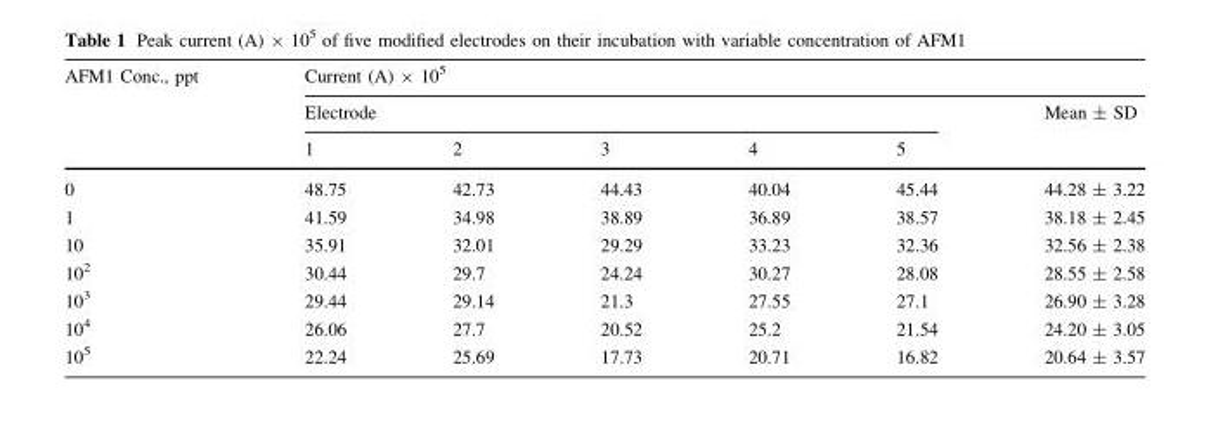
<table><thead><tr><td rowspan="3">AFM1 Conc., ppt</td><td colspan="6">Current (A) × 10<sup>5</sup></td></tr><tr><td colspan="5">Electrode</td><td rowspan="2">Mean ± SD</td></tr><tr><td>1</td><td>2</td><td>3</td><td>4</td><td>5</td></tr></thead><tbody><tr><td>0</td><td>48.75</td><td>42.73</td><td>44.43</td><td>40.04</td><td>45.44</td><td>44.28 ± 3.22</td></tr><tr><td>1</td><td>41.59</td><td>34.98</td><td>38.89</td><td>36.89</td><td>38.57</td><td>38.18 ± 2.45</td></tr><tr><td>10</td><td>35.91</td><td>32.01</td><td>29.29</td><td>33.23</td><td>32.36</td><td>32.56 ± 2.38</td></tr><tr><td>10<sup>2</sup></td><td>30.44</td><td>29.7</td><td>24.24</td><td>30.27</td><td>28.08</td><td>28.55 ± 2.58</td></tr><tr><td>10<sup>3</sup></td><td>29.44</td><td>29.14</td><td>21.3</td><td>27.55</td><td>27.1</td><td>26.90 ± 3.28</td></tr><tr><td>10<sup>4</sup></td><td>26.06</td><td>27.7</td><td>20.52</td><td>25.2</td><td>21.54</td><td>24.20 ± 3.05</td></tr><tr><td>10<sup>5</sup></td><td>22.24</td><td>25.69</td><td>17.73</td><td>20.71</td><td>16.82</td><td>20.64 ± 3.57</td></tr></tbody></table>